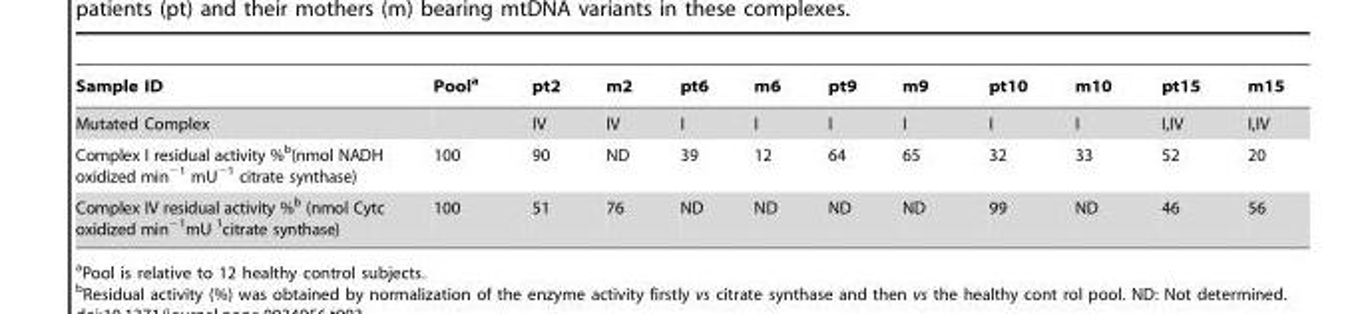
<table><thead><tr><td>Sample ID</td><td>Pool<sup>a</sup></td><td>pt2</td><td>m2</td><td>pt6</td><td>m6</td><td>pt9</td><td>m9</td><td>pt10</td><td>m10</td><td>pt15</td><td>m15</td></tr></thead><tbody><tr><td>Mutated Complex</td><td></td><td>IV</td><td>IV</td><td>I</td><td>I</td><td>I</td><td>I</td><td>I</td><td>I</td><td>I,IV</td><td>I,IV</td></tr><tr><td>Complex I residual activity %<sup>b</sup>(nmol NADH oxidized min<sup>−1</sup> mU<sup>−1</sup> citrate synthase)</td><td>100</td><td>90</td><td>ND</td><td>39</td><td>12</td><td>64</td><td>65</td><td>32</td><td>33</td><td>52</td><td>20</td></tr><tr><td>Complex IV residual activity %<sup>b</sup> (nmol Cytc oxidized min<sup>−1</sup>mU <sup>1</sup>citrate synthase)</td><td>100</td><td>51</td><td>76</td><td>ND</td><td>ND</td><td>ND</td><td>ND</td><td>99</td><td>ND</td><td>46</td><td>56</td></tr></tbody></table>